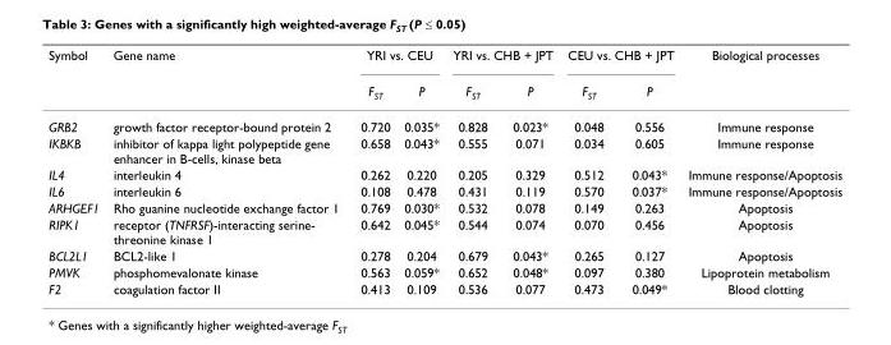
<table><thead><tr><td rowspan="2">Symbol</td><td rowspan="2">Gene name</td><td colspan="2">YRI vs. CEU</td><td colspan="2">YRI vs. CHB + JPT</td><td colspan="2">CEU vs. CHB + JPT</td><td rowspan="2">Biological processes</td></tr><tr><td>F<sub>ST</sub></td><td>P</td><td>F<sub>ST</sub></td><td>P</td><td>F<sub>ST</sub></td><td>P</td></tr></thead><tbody><tr><td>GRB2</td><td>growth factor receptor-bound protein 2</td><td>0.720</td><td>0.035*</td><td>0.828</td><td>0.023*</td><td>0.048</td><td>0.556</td><td>Immune response</td></tr><tr><td>IKBKB</td><td>inhibitor of kappa light polypeptide gene enhancer in B-cells, kinase beta</td><td>0.658</td><td>0.043*</td><td>0.555</td><td>0.071</td><td>0.034</td><td>0.605</td><td>Immune response</td></tr><tr><td>IL4</td><td>interleukin 4</td><td>0.262</td><td>0.220</td><td>0.205</td><td>0.329</td><td>0.512</td><td>0.043*</td><td>Immune response/Apoptosis</td></tr><tr><td>IL6</td><td>interleukin 6</td><td>0.108</td><td>0.478</td><td>0.431</td><td>0.119</td><td>0.570</td><td>0.037*</td><td>Immune response/Apoptosis</td></tr><tr><td>ARHGEF1</td><td>Rho guanine nucleotide exchange factor 1</td><td>0.769</td><td>0.030*</td><td>0.532</td><td>0.078</td><td>0.149</td><td>0.263</td><td>Apoptosis</td></tr><tr><td>RIPK1</td><td>receptor (TNFRSF)-interacting serine- threonine kinase 1</td><td>0.642</td><td>0.045*</td><td>0.544</td><td>0.074</td><td>0.070</td><td>0.456</td><td>Apoptosis</td></tr><tr><td>BCL2L1</td><td>BCL2-like 1</td><td>0.278</td><td>0.204</td><td>0.679</td><td>0.043*</td><td>0.265</td><td>0.127</td><td>Apoptosis</td></tr><tr><td>PMVK</td><td>phosphomevalonate kinase</td><td>0.563</td><td>0.059*</td><td>0.652</td><td>0.048*</td><td>0.097</td><td>0.380</td><td>Lipoprotein metabolism</td></tr><tr><td>F2</td><td>coagulation factor II</td><td>0.413</td><td>0.109</td><td>0.536</td><td>0.077</td><td>0.473</td><td>0.049*</td><td>Blood clotting</td></tr></tbody></table>